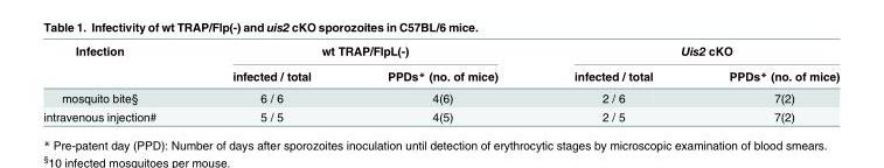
<table><thead><tr><td rowspan="2">Infection</td><td colspan="2">wt TRAP/FlpL(-)</td><td colspan="2">Uis2 cKO</td></tr><tr><td>infected / total</td><td>PPDs* (no. of mice)</td><td>infected / total</td><td>PPDs* (no. of mice)</td></tr></thead><tbody><tr><td>mosquito bite§</td><td>6 / 6</td><td>4(6)</td><td>2 / 6</td><td>7(2)</td></tr><tr><td>intravenous injection#</td><td>5 / 5</td><td>4(5)</td><td>2 / 5</td><td>7(2)</td></tr></tbody></table>